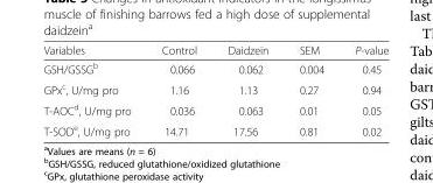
<table><thead><tr><td>Variables</td><td>Control</td><td>Daidzein</td><td>SEM</td><td>P-value</td></tr></thead><tbody><tr><td>GSH/GSSG<sup>b</sup></td><td>0.066</td><td>0.062</td><td>0.004</td><td>0.45</td></tr><tr><td>GPx<sup>c</sup>, U/mg pro</td><td>1.16</td><td>1.13</td><td>0.27</td><td>0.94</td></tr><tr><td>T-AOC<sup>d</sup>, U/mg pro</td><td>0.036</td><td>0.063</td><td>0.01</td><td>0.05</td></tr><tr><td>T-SOD<sup>e</sup>, U/mg pro</td><td>14.71</td><td>17.56</td><td>0.81</td><td>0.02</td></tr></tbody></table>